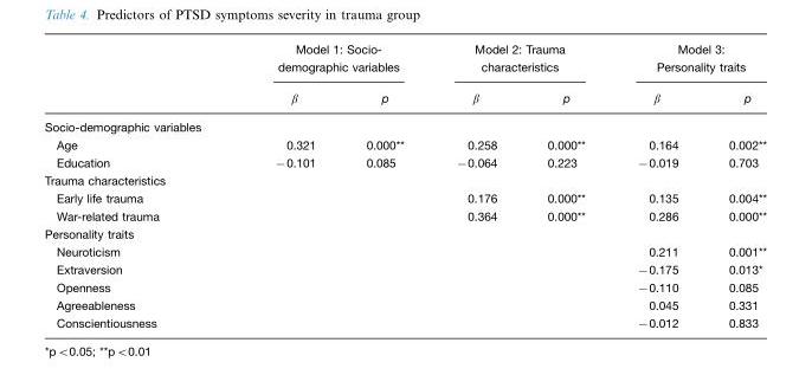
<table><thead><tr><td rowspan="2"></td><td colspan="2">Model 1: Socio- demographic variables</td><td colspan="2">Model 2: Trauma characteristics</td><td colspan="2">Model 3: Personality traits</td></tr><tr><td>β</td><td>p</td><td>β</td><td>p</td><td>β</td><td>p</td></tr></thead><tbody><tr><td colspan="7">Socio-demographic variables</td></tr><tr><td>Age</td><td>0.321</td><td>0.000**</td><td>0.258</td><td>0.000**</td><td>0.164</td><td>0.002**</td></tr><tr><td>Education</td><td>−0.101</td><td>0.085</td><td>−0.064</td><td>0.223</td><td>−0.019</td><td>0.703</td></tr><tr><td colspan="7">Trauma characteristics</td></tr><tr><td>Early life trauma</td><td></td><td></td><td>0.176</td><td>0.000**</td><td>0.135</td><td>0.004**</td></tr><tr><td>War-related trauma</td><td></td><td></td><td>0.364</td><td>0.000**</td><td>0.286</td><td>0.000**</td></tr><tr><td colspan="7">Personality traits</td></tr><tr><td>Neuroticism</td><td></td><td></td><td></td><td></td><td>0.211</td><td>0.001**</td></tr><tr><td>Extraversion</td><td></td><td></td><td></td><td></td><td>−0.175</td><td>0.013*</td></tr><tr><td>Openness</td><td></td><td></td><td></td><td></td><td>−0.110</td><td>0.085</td></tr><tr><td>Agreeableness</td><td></td><td></td><td></td><td></td><td>0.045</td><td>0.331</td></tr><tr><td>Conscientiousness</td><td></td><td></td><td></td><td></td><td>−0.012</td><td>0.833</td></tr></tbody></table>